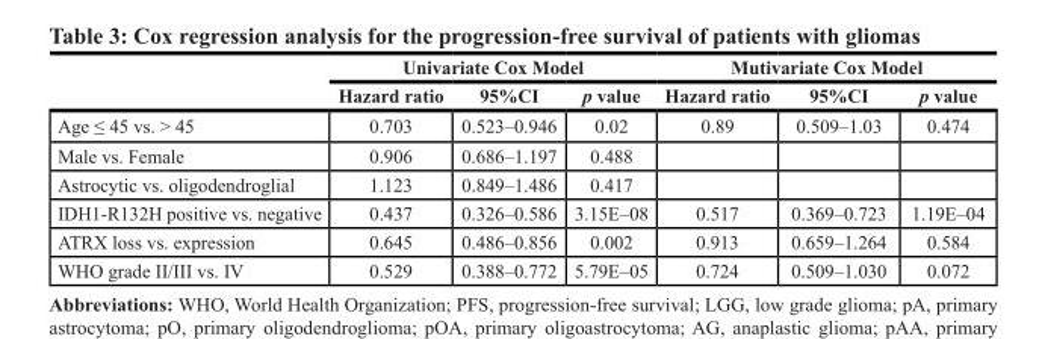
<table><thead><tr><td rowspan="2"></td><td colspan="3">Univariate Cox Model</td><td colspan="3">Mutivariate Cox Model</td></tr><tr><td>Hazard ratio</td><td>95%CI</td><td>p value</td><td>Hazard ratio</td><td>95%CI</td><td>p value</td></tr></thead><tbody><tr><td>Age ≤ 45 vs. &gt; 45</td><td>0.703</td><td>0.523–0.946</td><td>0.02</td><td>0.89</td><td>0.509–1.03</td><td>0.474</td></tr><tr><td>Male vs. Female</td><td>0.906</td><td>0.686–1.197</td><td>0.488</td><td></td><td></td><td></td></tr><tr><td>Astrocytic vs. oligodendroglial</td><td>1.123</td><td>0.849–1.486</td><td>0.417</td><td></td><td></td><td></td></tr><tr><td>IDH1-R132H positive vs. negative</td><td>0.437</td><td>0.326–0.586</td><td>3.15E–08</td><td>0.517</td><td>0.369–0.723</td><td>1.19E–04</td></tr><tr><td>ATRX loss vs. expression</td><td>0.645</td><td>0.486–0.856</td><td>0.002</td><td>0.913</td><td>0.659–1.264</td><td>0.584</td></tr><tr><td>WHO grade II/III vs. IV</td><td>0.529</td><td>0.388–0.772</td><td>5.79E–05</td><td>0.724</td><td>0.509–1.030</td><td>0.072</td></tr></tbody></table>